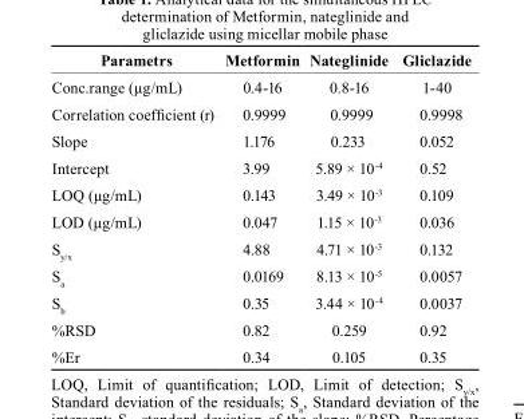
<table><thead><tr><td>Parametrs</td><td>Metformin</td><td>Nateglinide</td><td>Gliclazide</td></tr></thead><tbody><tr><td>Conc.range (μg/mL)</td><td>0.4-16</td><td>0.8-16</td><td>1-40</td></tr><tr><td>Correlation coefficient (r)</td><td>0.9999</td><td>0.9999</td><td>0.9998</td></tr><tr><td>Slope</td><td>1.176</td><td>0.233</td><td>0.052</td></tr><tr><td>Intercept</td><td>3.99</td><td>5.89 × 10<sup>-4</sup></td><td>0.52</td></tr><tr><td>LOQ (μg/mL)</td><td>0.143</td><td>3.49 × 10<sup>-3</sup></td><td>0.109</td></tr><tr><td>LOD (μg/mL)</td><td>0.047</td><td>1.15 × 10<sup>-3</sup></td><td>0.036</td></tr><tr><td>S<sub>y/x</sub></td><td>4.88</td><td>4.71 × 10<sup>-3</sup></td><td>0.132</td></tr><tr><td>S<sub>a</sub></td><td>0.0169</td><td>8.13 × 10<sup>-5</sup></td><td>0.0057</td></tr><tr><td>S<sub>b</sub></td><td>0.35</td><td>3.44 × 10<sup>-4</sup></td><td>0.0037</td></tr><tr><td>%RSD</td><td>0.82</td><td>0.259</td><td>0.92</td></tr><tr><td>%Er</td><td>0.34</td><td>0.105</td><td>0.35</td></tr></tbody></table>